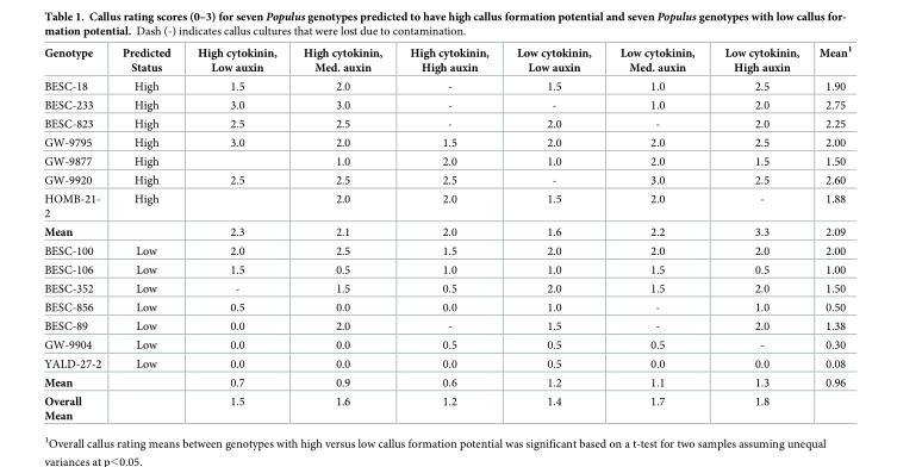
<table><thead><tr><td>Genotype</td><td>Predicted Status</td><td>High cytokinin, Low auxin</td><td>High cytokinin, Med. auxin</td><td>High cytokinin, High auxin</td><td>Low cytokinin, Low auxin</td><td>Low cytokinin, Med. auxin</td><td>Low cytokinin, High auxin</td><td>Mean<sup>1</sup></td></tr></thead><tbody><tr><td>BESC-18</td><td>High</td><td>1.5</td><td>2.0</td><td>-</td><td>1.5</td><td>1.0</td><td>2.5</td><td>1.90</td></tr><tr><td>BESC-233</td><td>High</td><td>3.0</td><td>3.0</td><td>-</td><td>-</td><td>1.0</td><td>2.0</td><td>2.75</td></tr><tr><td>BESC-823</td><td>High</td><td>2.5</td><td>2.5</td><td>-</td><td>2.0</td><td>-</td><td>2.0</td><td>2.25</td></tr><tr><td>GW-9795</td><td>High</td><td>3.0</td><td>2.0</td><td>1.5</td><td>2.0</td><td>2.0</td><td>2.5</td><td>2.00</td></tr><tr><td>GW-9877</td><td>High</td><td></td><td>1.0</td><td>2.0</td><td>1.0</td><td>2.0</td><td>1.5</td><td>1.50</td></tr><tr><td>GW-9920</td><td>High</td><td>2.5</td><td>2.5</td><td>2.5</td><td>-</td><td>3.0</td><td>2.5</td><td>2.60</td></tr><tr><td>HOMB-21- 2</td><td>High</td><td></td><td>2.0</td><td>2.0</td><td>1.5</td><td>2.0</td><td>-</td><td>1.88</td></tr><tr><td>Mean</td><td></td><td>2.3</td><td>2.1</td><td>2.0</td><td>1.6</td><td>2.2</td><td>3.3</td><td>2.09</td></tr><tr><td>BESC-100</td><td>Low</td><td>2.0</td><td>2.5</td><td>1.5</td><td>2.0</td><td>2.0</td><td>2.0</td><td>2.00</td></tr><tr><td>BESC-106</td><td>Low</td><td>1.5</td><td>0.5</td><td>1.0</td><td>1.0</td><td>1.5</td><td>0.5</td><td>1.00</td></tr><tr><td>BESC-352</td><td>Low</td><td>-</td><td>1.5</td><td>0.5</td><td>2.0</td><td>1.5</td><td>2.0</td><td>1.50</td></tr><tr><td>BESC-856</td><td>Low</td><td>0.5</td><td>0.0</td><td>0.0</td><td>1.0</td><td>-</td><td>1.0</td><td>0.50</td></tr><tr><td>BESC-89</td><td>Low</td><td>0.0</td><td>2.0</td><td>-</td><td>1.5</td><td>-</td><td>2.0</td><td>1.38</td></tr><tr><td>GW-9904</td><td>Low</td><td>0.0</td><td>0.0</td><td>0.5</td><td>0.5</td><td>0.5</td><td>-</td><td>0.30</td></tr><tr><td>YALD-27-2</td><td>Low</td><td>0.0</td><td>0.0</td><td>0.0</td><td>0.5</td><td>0.0</td><td>0.0</td><td>0.08</td></tr><tr><td>Mean</td><td></td><td>0.7</td><td>0.9</td><td>0.6</td><td>1.2</td><td>1.1</td><td>1.3</td><td>0.96</td></tr><tr><td>Overall Mean</td><td></td><td>1.5</td><td>1.6</td><td>1.2</td><td>1.4</td><td>1.7</td><td>1.8</td><td></td></tr></tbody></table>